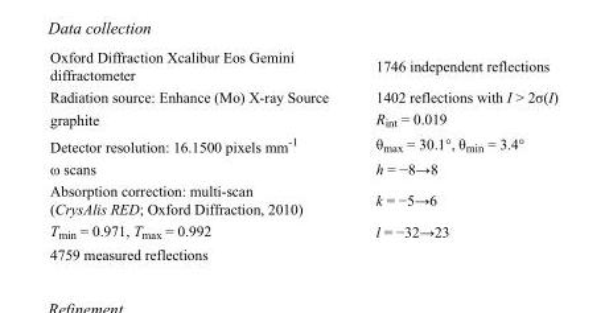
<table><tbody><tr><td>Oxford Diffraction Xcalibur Eos Gemini diffractometer</td><td>1746 independent reflections</td></tr><tr><td>Radiation source: Enhance (Mo) X-ray Source</td><td>1402 reflections with I &gt; 2σ(I)</td></tr><tr><td>graphite</td><td>R<sub>int</sub> = 0.019</td></tr><tr><td>Detector resolution: 16.1500 pixels mm<sup>-1</sup></td><td>θ<sub>max</sub> = 30.1°, θ<sub>min</sub> = 3.4°</td></tr><tr><td>ω scans</td><td>h = −8→8</td></tr><tr><td>Absorption correction: multi-scan (CrysAlis RED; Oxford Diffraction, 2010)</td><td>k = −5→6</td></tr><tr><td>T<sub>min</sub> = 0.971, T<sub>max</sub> = 0.992</td><td>l = −32→23</td></tr><tr><td>4759 measured reflections</td><td></td></tr></tbody></table>